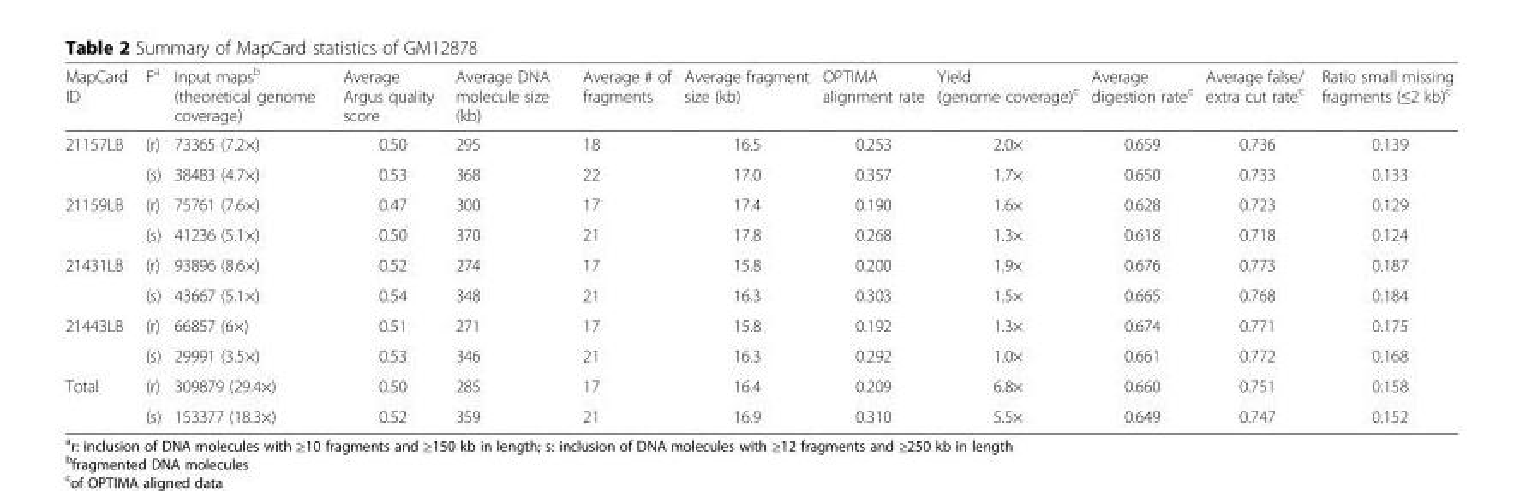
<table><thead><tr><td>MapCard ID</td><td>F<sup>a</sup></td><td>Input maps<sup>b</sup> (theoretical genome coverage)</td><td>Average Argus quality score</td><td>Average DNA molecule size (kb)</td><td>Average # of fragments</td><td>Average fragment size (kb)</td><td>OPTIMA alignment rate</td><td>Yield (genome coverage)<sup>c</sup></td><td>Average digestion rate<sup>c</sup></td><td>Average false/ extra cut rate<sup>c</sup></td><td>Ratio small missing fragments (≤2 kb)<sup>c</sup></td></tr></thead><tbody><tr><td rowspan="2">21157LB</td><td>(r)</td><td>73365 (7.2×)</td><td>0.50</td><td>295</td><td>18</td><td>16.5</td><td>0.253</td><td>2.0×</td><td>0.659</td><td>0.736</td><td>0.139</td></tr><tr><td>(s)</td><td>38483 (4.7×)</td><td>0.53</td><td>368</td><td>22</td><td>17.0</td><td>0.357</td><td>1.7×</td><td>0.650</td><td>0.733</td><td>0.133</td></tr><tr><td rowspan="2">21159LB</td><td>(r)</td><td>75761 (7.6×)</td><td>0.47</td><td>300</td><td>17</td><td>17.4</td><td>0.190</td><td>1.6×</td><td>0.628</td><td>0.723</td><td>0.129</td></tr><tr><td>(s)</td><td>41236 (5.1×)</td><td>0.50</td><td>370</td><td>21</td><td>17.8</td><td>0.268</td><td>1.3×</td><td>0.618</td><td>0.718</td><td>0.124</td></tr><tr><td rowspan="2">21431LB</td><td>(r)</td><td>93896 (8.6×)</td><td>0.52</td><td>274</td><td>17</td><td>15.8</td><td>0.200</td><td>1.9×</td><td>0.676</td><td>0.773</td><td>0.187</td></tr><tr><td>(s)</td><td>43667 (5.1×)</td><td>0.54</td><td>348</td><td>21</td><td>16.3</td><td>0.303</td><td>1.5×</td><td>0.665</td><td>0.768</td><td>0.184</td></tr><tr><td rowspan="2">21443LB</td><td>(r)</td><td>66857 (6×)</td><td>0.51</td><td>271</td><td>17</td><td>15.8</td><td>0.192</td><td>1.3×</td><td>0.674</td><td>0.771</td><td>0.175</td></tr><tr><td>(s)</td><td>29991 (3.5×)</td><td>0.53</td><td>346</td><td>21</td><td>16.3</td><td>0.292</td><td>1.0×</td><td>0.661</td><td>0.772</td><td>0.168</td></tr><tr><td rowspan="2">Total</td><td>(r)</td><td>309879 (29.4×)</td><td>0.50</td><td>285</td><td>17</td><td>16.4</td><td>0.209</td><td>6.8×</td><td>0.660</td><td>0.751</td><td>0.158</td></tr><tr><td>(s)</td><td>153377 (18.3×)</td><td>0.52</td><td>359</td><td>21</td><td>16.9</td><td>0.310</td><td>5.5×</td><td>0.649</td><td>0.747</td><td>0.152</td></tr></tbody></table>